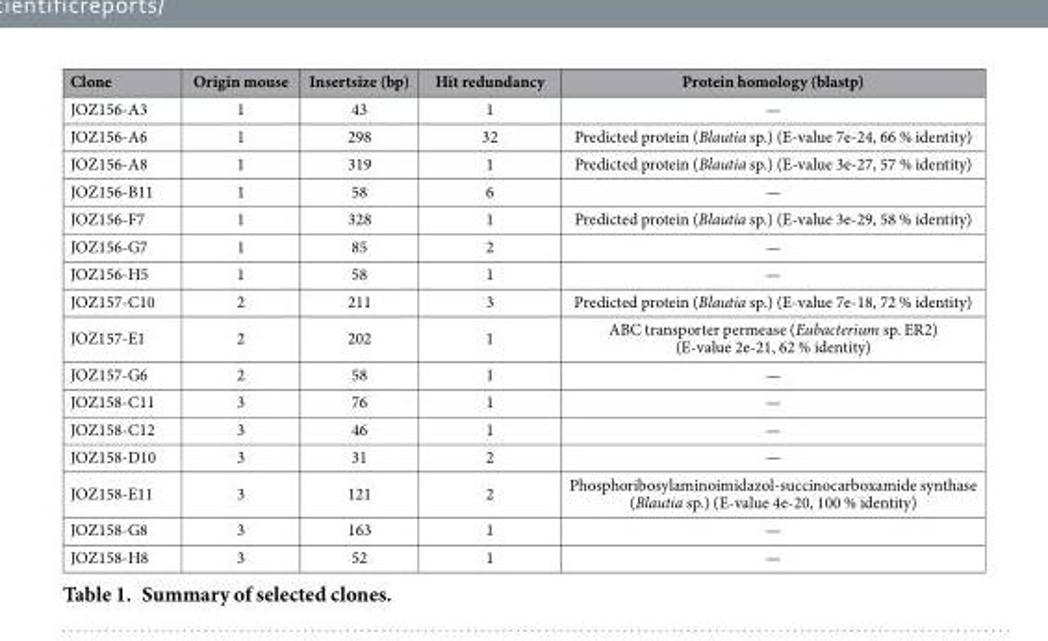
<table><thead><tr><td>Clone</td><td>Origin mouse</td><td>Insertsize (bp)</td><td>Hit redundancy</td><td>Protein homology (blastp)</td></tr></thead><tbody><tr><td>JOZ156-A3</td><td>1</td><td>43</td><td>1</td><td>—</td></tr><tr><td>JOZ156-A6</td><td>1</td><td>298</td><td>32</td><td>Predicted protein (Blautia sp.) (E-value 7e-24, 66 % identity)</td></tr><tr><td>JOZ156-A8</td><td>1</td><td>319</td><td>1</td><td>Predicted protein (Blautia sp.) (E-value 3e-27, 57 % identity)</td></tr><tr><td>JOZ156-B11</td><td>1</td><td>58</td><td>6</td><td>—</td></tr><tr><td>JOZ156-F7</td><td>1</td><td>328</td><td>1</td><td>Predicted protein (Blautia sp.) (E-value 3e-29, 58 % identity)</td></tr><tr><td>JOZ156-G7</td><td>1</td><td>85</td><td>2</td><td>—</td></tr><tr><td>JOZ156-H5</td><td>1</td><td>58</td><td>1</td><td>—</td></tr><tr><td>JOZ157-C10</td><td>2</td><td>211</td><td>3</td><td>Predicted protein (Blautia sp.) (E-value 7e-18, 72 % identity)</td></tr><tr><td>JOZ157-E1</td><td>2</td><td>202</td><td>1</td><td>ABC transporter permease (Eubacterium sp. ER2) (E-value 2e-21, 62 % identity)</td></tr><tr><td>JOZ157-G6</td><td>2</td><td>58</td><td>1</td><td>—</td></tr><tr><td>JOZ158-C11</td><td>3</td><td>76</td><td>1</td><td>—</td></tr><tr><td>JOZ158-C12</td><td>3</td><td>46</td><td>1</td><td>—</td></tr><tr><td>JOZ158-D10</td><td>3</td><td>31</td><td>2</td><td>—</td></tr><tr><td>JOZ158-E11</td><td>3</td><td>121</td><td>2</td><td>Phosphoribosylaminoimidazol-succinocarboxamide synthase (Blautia sp.) (E-value 4e-20, 100 % identity)</td></tr><tr><td>JOZ158-G8</td><td>3</td><td>163</td><td>1</td><td>—</td></tr><tr><td>JOZ158-H8</td><td>3</td><td>52</td><td>1</td><td>—</td></tr></tbody></table>